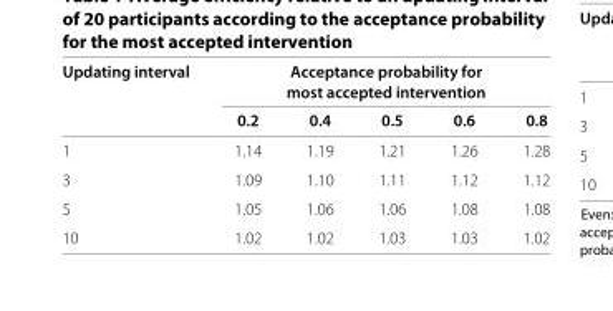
<table><thead><tr><td rowspan="2">Updating interval</td><td colspan="5">Acceptance probability for most accepted intervention</td></tr><tr><td>0.2</td><td>0.4</td><td>0.5</td><td>0.6</td><td>0.8</td></tr></thead><tbody><tr><td>1</td><td>1.14</td><td>1.19</td><td>1.21</td><td>1.26</td><td>1.28</td></tr><tr><td>3</td><td>1.09</td><td>1.10</td><td>1.11</td><td>1.12</td><td>1.12</td></tr><tr><td>5</td><td>1.05</td><td>1.06</td><td>1.06</td><td>1.08</td><td>1.08</td></tr><tr><td>10</td><td>1.02</td><td>1.02</td><td>1.03</td><td>1.03</td><td>1.02</td></tr></tbody></table>